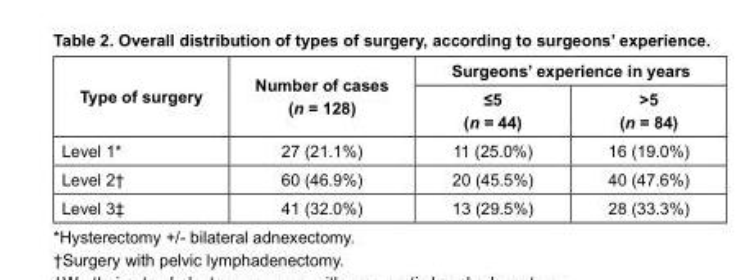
<table><thead><tr><td rowspan="2">Type of surgery</td><td rowspan="2">Number of cases (n = 128)</td><td colspan="2">Surgeons’ experience in years</td></tr><tr><td>≤5 (n = 44)</td><td>&gt;5 (n = 84)</td></tr></thead><tbody><tr><td>Level 1*</td><td>27 (21.1%)</td><td>11 (25.0%)</td><td>16 (19.0%)</td></tr><tr><td>Level 2<sup>†</sup></td><td>60 (46.9%)</td><td>20 (45.5%)</td><td>40 (47.6%)</td></tr><tr><td>Level 3<sup>‡</sup></td><td>41 (32.0%)</td><td>13 (29.5%)</td><td>28 (33.3%)</td></tr></tbody></table>